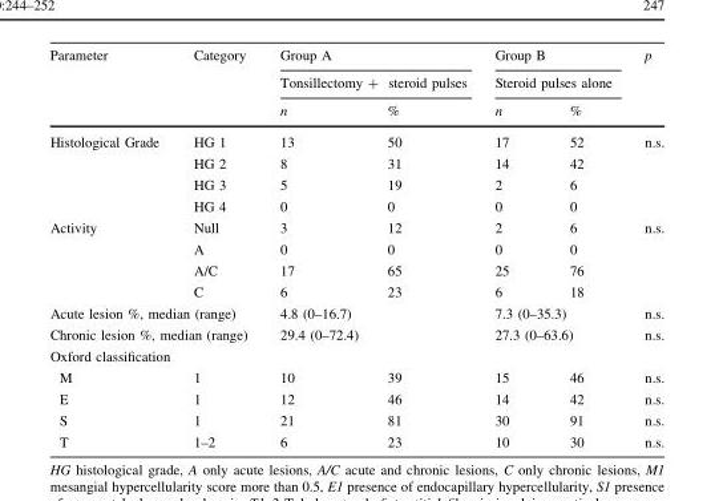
<table><thead><tr><td rowspan="3">Parameter</td><td rowspan="3">Category</td><td rowspan="2" colspan="2">Group A Tonsillectomy + steroid pulses</td><td rowspan="2" colspan="2">Group B Steroid pulses alone</td><td rowspan="3">p</td></tr><tr></tr><tr><td>n</td><td>%</td><td>n</td><td>%</td></tr></thead><tbody><tr><td rowspan="4">Histological Grade</td><td>HG 1</td><td>13</td><td>50</td><td>17</td><td>52</td><td rowspan="4">n.s.</td></tr><tr><td>HG 2</td><td>8</td><td>31</td><td>14</td><td>42</td></tr><tr><td>HG 3</td><td>5</td><td>19</td><td>2</td><td>6</td></tr><tr><td>HG 4</td><td>0</td><td>0</td><td>0</td><td>0</td></tr><tr><td rowspan="4">Activity</td><td>Null</td><td>3</td><td>12</td><td>2</td><td>6</td><td rowspan="4">n.s.</td></tr><tr><td>A</td><td>0</td><td>0</td><td>0</td><td>0</td></tr><tr><td>A/C</td><td>17</td><td>65</td><td>25</td><td>76</td></tr><tr><td>C</td><td>6</td><td>23</td><td>6</td><td>18</td></tr><tr><td colspan="2">Acute lesion %, median (range)</td><td colspan="2">4.8 (0–16.7)</td><td colspan="2">7.3 (0–35.3)</td><td>n.s.</td></tr><tr><td colspan="2">Chronic lesion %, median (range)</td><td colspan="2">29.4 (0–72.4)</td><td colspan="2">27.3 (0–63.6)</td><td>n.s.</td></tr><tr><td colspan="7">Oxford classification</td></tr><tr><td>M</td><td>1</td><td>10</td><td>39</td><td>15</td><td>46</td><td>n.s.</td></tr><tr><td>E</td><td>1</td><td>12</td><td>46</td><td>14</td><td>42</td><td>n.s.</td></tr><tr><td>S</td><td>1</td><td>21</td><td>81</td><td>30</td><td>91</td><td>n.s.</td></tr><tr><td>T</td><td>1–2</td><td>6</td><td>23</td><td>10</td><td>30</td><td>n.s.</td></tr></tbody></table>